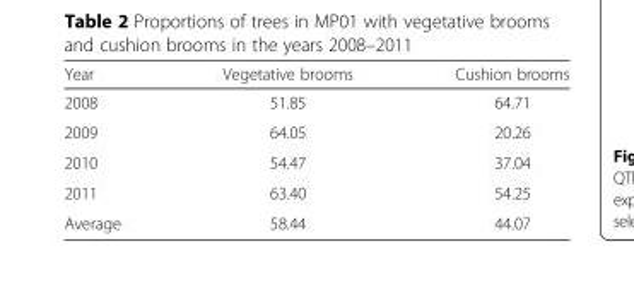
<table><thead><tr><td>Year</td><td>Vegetative brooms</td><td>Cushion brooms</td></tr></thead><tbody><tr><td>2008</td><td>51.85</td><td>64.71</td></tr><tr><td>2009</td><td>64.05</td><td>20.26</td></tr><tr><td>2010</td><td>54.47</td><td>37.04</td></tr><tr><td>2011</td><td>63.40</td><td>54.25</td></tr><tr><td>Average</td><td>58.44</td><td>44.07</td></tr></tbody></table>